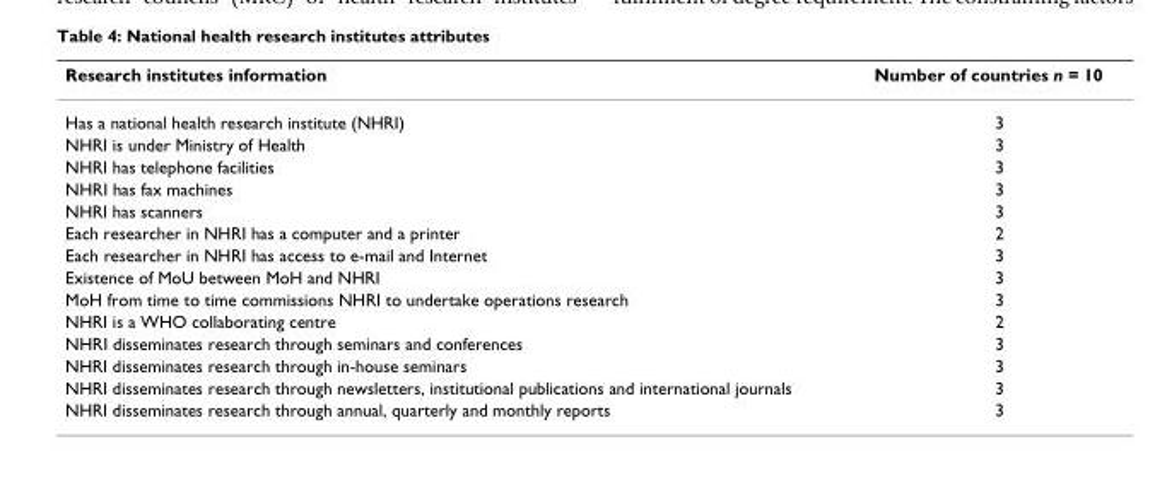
<table><thead><tr><td>Research institutes information</td><td>Number of countries n = 10</td></tr></thead><tbody><tr><td>Has a national health research institute (NHRI)</td><td>3</td></tr><tr><td>NHRI is under Ministry of Health</td><td>3</td></tr><tr><td>NHRI has telephone facilities</td><td>3</td></tr><tr><td>NHRI has fax machines</td><td>3</td></tr><tr><td>NHRI has scanners</td><td>3</td></tr><tr><td>Each researcher in NHRI has a computer and a printer</td><td>2</td></tr><tr><td>Each researcher in NHRI has access to e-mail and Internet</td><td>3</td></tr><tr><td>Existence of MoU between MoH and NHRI</td><td>3</td></tr><tr><td>MoH from time to time commissions NHRI to undertake operations research</td><td>3</td></tr><tr><td>NHRI is a WHO collaborating centre</td><td>2</td></tr><tr><td>NHRI disseminates research through seminars and conferences</td><td>3</td></tr><tr><td>NHRI disseminates research through in-house seminars</td><td>3</td></tr><tr><td>NHRI disseminates research through newsletters, institutional publications and international journals</td><td>3</td></tr><tr><td>NHRI disseminates research through annual, quarterly and monthly reports</td><td>3</td></tr></tbody></table>